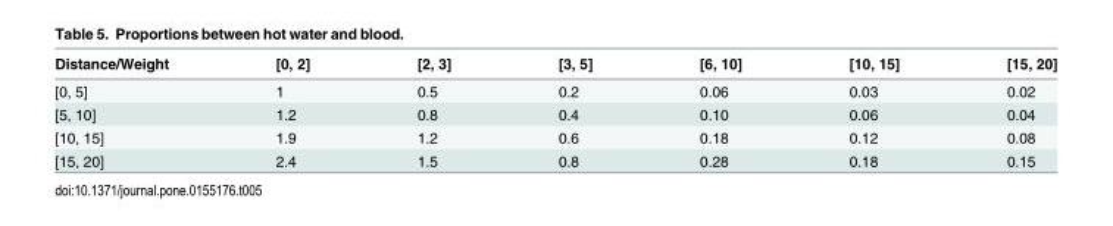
<table><thead><tr><td>Distance/Weight</td><td>[0, 2]</td><td>[2, 3]</td><td>[3, 5]</td><td>[6, 10]</td><td>[10, 15]</td><td>[15, 20]</td></tr></thead><tbody><tr><td>[0, 5]</td><td>1</td><td>0.5</td><td>0.2</td><td>0.06</td><td>0.03</td><td>0.02</td></tr><tr><td>[5, 10]</td><td>1.2</td><td>0.8</td><td>0.4</td><td>0.10</td><td>0.06</td><td>0.04</td></tr><tr><td>[10, 15]</td><td>1.9</td><td>1.2</td><td>0.6</td><td>0.18</td><td>0.12</td><td>0.08</td></tr><tr><td>[15, 20]</td><td>2.4</td><td>1.5</td><td>0.8</td><td>0.28</td><td>0.18</td><td>0.15</td></tr></tbody></table>